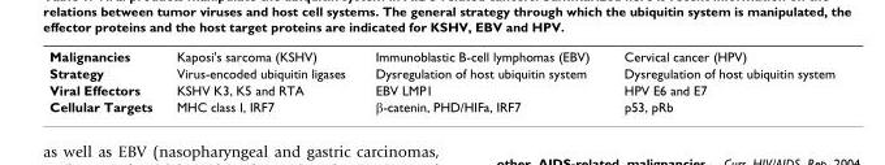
<table><tbody><tr><td>Malignancies</td><td>Kaposi&#x27;s sarcoma (KSHV)</td><td>Immunoblastic B-cell lymphomas (EBV)</td><td>Cervical cancer (HPV)</td></tr><tr><td>Strategy</td><td>Virus-encoded ubiquitin ligases</td><td>Dysregulation of host ubiquitin system</td><td>Dysregulation of host ubiquitin system</td></tr><tr><td>Viral Effectors</td><td>KSHV K3, K5 and RTA</td><td>EBV LMP1</td><td>HPV E6 and E7</td></tr><tr><td>Cellular Targets</td><td>MHC class I, IRF7</td><td>β-catenin, PHD/HIFa, IRF7</td><td>p53, pRb</td></tr></tbody></table>